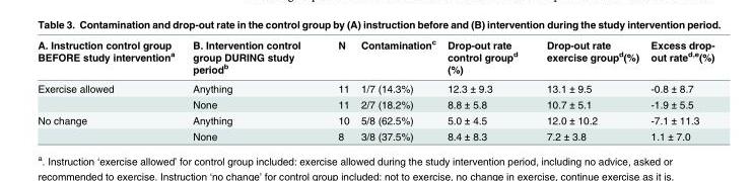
<table><thead><tr><td>A. Instruction control group BEFORE study intervention<sup>a</sup></td><td>B. Intervention control group DURING study period<sup>b</sup></td><td>N</td><td>Contamination<sup>c</sup></td><td>Drop-out rate control group<sup>d</sup> (%)</td><td>Drop-out rate exercise group<sup>d</sup>(%)</td><td>Excess drop- out rate<sup>d,e</sup>(%)</td></tr></thead><tbody><tr><td rowspan="2">Exercise allowed</td><td>Anything</td><td>11</td><td>1/7 (14.3%)</td><td>12.3 ± 9.3</td><td>13.1 ± 9.5</td><td>-0.8 ± 8.7</td></tr><tr><td>None</td><td>11</td><td>2/7 (18.2%)</td><td>8.8 ± 5.8</td><td>10.7 ± 5.1</td><td>-1.9 ± 5.5</td></tr><tr><td rowspan="2">No change</td><td>Anything</td><td>10</td><td>5/8 (62.5%)</td><td>5.0 ± 4.5</td><td>12.0 ± 10.2</td><td>-7.1 ± 11.3</td></tr><tr><td>None</td><td>8</td><td>3/8 (37.5%)</td><td>8.4 ± 8.3</td><td>7.2 ± 3.8</td><td>1.1 ± 7.0</td></tr></tbody></table>